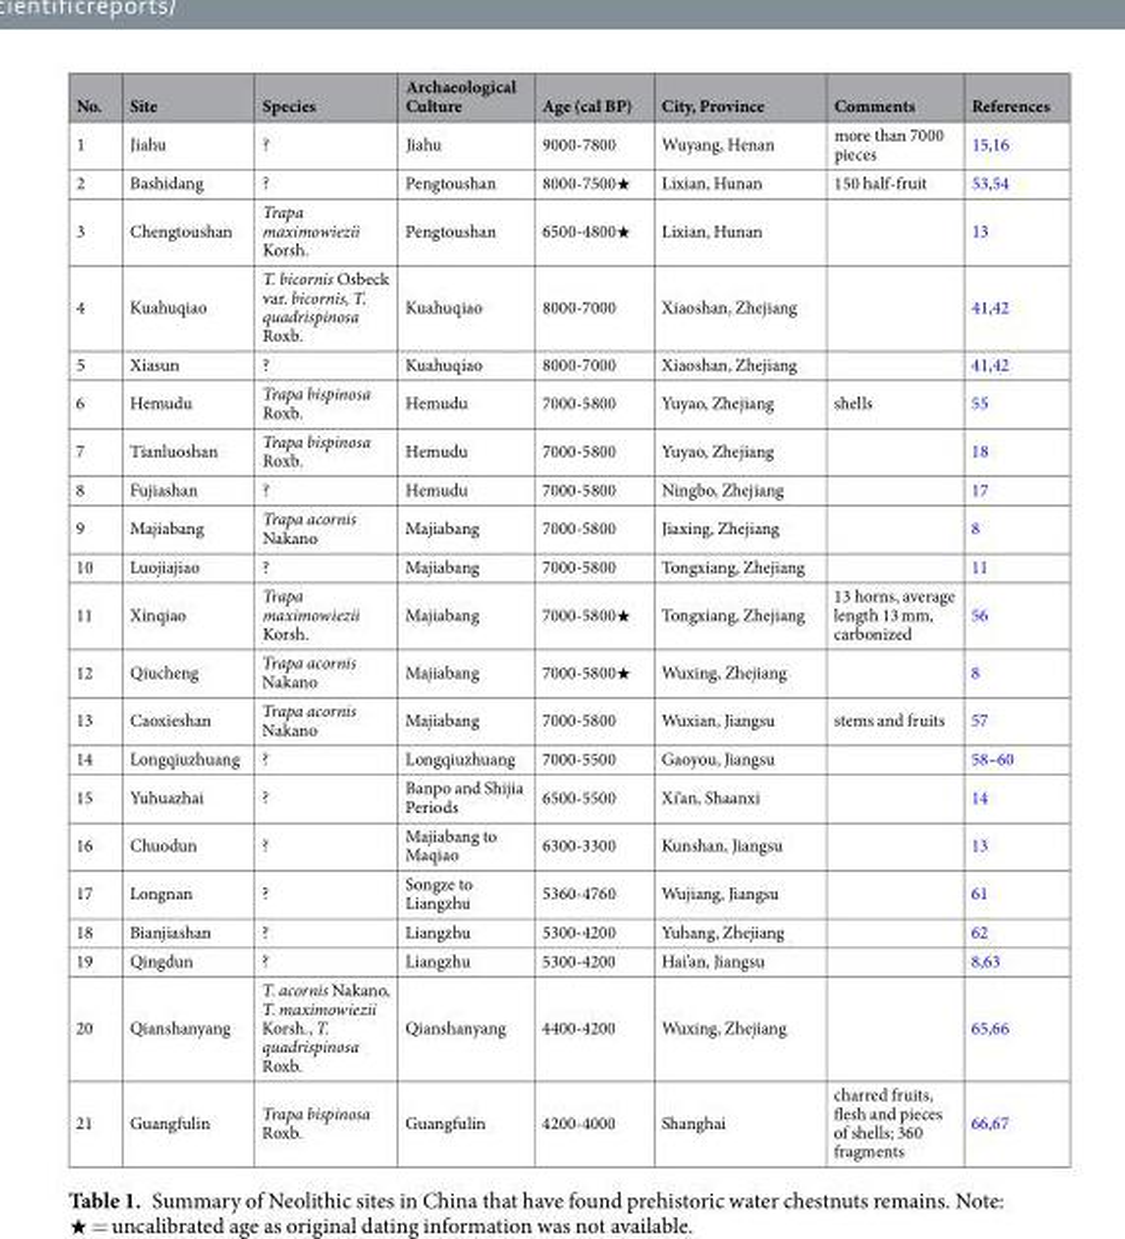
<table><thead><tr><td>No.</td><td>Site</td><td>Species</td><td>Archaeological Culture</td><td>Age (cal BP)</td><td>City, Province</td><td>Comments</td><td>References</td></tr></thead><tbody><tr><td>1</td><td>Jiahu</td><td>?</td><td>Jiahu</td><td>9000-7800</td><td>Wuyang, Henan</td><td>more than 7000 pieces</td><td>15,16</td></tr><tr><td>2</td><td>Bashidang</td><td>?</td><td>Pengtoushan</td><td>8000-7500★</td><td>Lixian, Hunan</td><td>150 half-fruit</td><td>53,54</td></tr><tr><td>3</td><td>Chengtoushan</td><td>Trapa maximowiezii Korsh.</td><td>Pengtoushan</td><td>6500-4800★</td><td>Lixian, Hunan</td><td></td><td>13</td></tr><tr><td>4</td><td>Kuahuqiao</td><td>T. bicornis Osbeck var. bicornis, T. quadrispinosa Roxb.</td><td>Kuahuqiao</td><td>8000-7000</td><td>Xiaoshan, Zhejiang</td><td></td><td>41,42</td></tr><tr><td>5</td><td>Xiasun</td><td>?</td><td>Kuahuqiao</td><td>8000-7000</td><td>Xiaoshan, Zhejiang</td><td></td><td>41,42</td></tr><tr><td>6</td><td>Hemudu</td><td>Trapa bispinosa Roxb.</td><td>Hemudu</td><td>7000-5800</td><td>Yuyao, Zhejiang</td><td>shells</td><td>55</td></tr><tr><td>7</td><td>Tianluoshan</td><td>Trapa bispinosa Roxb.</td><td>Hemudu</td><td>7000-5800</td><td>Yuyao, Zhejiang</td><td></td><td>18</td></tr><tr><td>8</td><td>Fujiashan</td><td>?</td><td>Hemudu</td><td>7000-5800</td><td>Ningbo, Zhejiang</td><td></td><td>17</td></tr><tr><td>9</td><td>Majiabang</td><td>Trapa acornis Nakano</td><td>Majiabang</td><td>7000-5800</td><td>Jiaxing, Zhejiang</td><td></td><td>8</td></tr><tr><td>10</td><td>Luojiajiao</td><td>?</td><td>Majiabang</td><td>7000-5800</td><td>Tongxiang, Zhejiang</td><td></td><td>11</td></tr><tr><td>11</td><td>Xinqiao</td><td>Trapa maximowiezii Korsh.</td><td>Majiabang</td><td>7000-5800★</td><td>Tongxiang, Zhejiang</td><td>13 horns, average length 13 mm, carbonized</td><td>56</td></tr><tr><td>12</td><td>Qiucheng</td><td>Trapa acornis Nakano</td><td>Majiabang</td><td>7000-5800★</td><td>Wuxing, Zhejiang</td><td></td><td>8</td></tr><tr><td>13</td><td>Caoxieshan</td><td>Trapa acornis Nakano</td><td>Majiabang</td><td>7000-5800</td><td>Wuxian, Jiangsu</td><td>stems and fruits</td><td>57</td></tr><tr><td>14</td><td>Longqiuzhuang</td><td>?</td><td>Longqiuzhuang</td><td>7000-5500</td><td>Gaoyou, Jiangsu</td><td></td><td>58–60</td></tr><tr><td>15</td><td>Yuhuazhai</td><td>?</td><td>Banpo and Shijia Periods</td><td>6500-5500</td><td>Xi’an, Shaanxi</td><td></td><td>14</td></tr><tr><td>16</td><td>Chuodun</td><td>?</td><td>Majiabang to Maqiao</td><td>6300-3300</td><td>Kunshan, Jiangsu</td><td></td><td>13</td></tr><tr><td>17</td><td>Longnan</td><td>?</td><td>Songze to Liangzhu</td><td>5360-4760</td><td>Wujiang, Jiangsu</td><td></td><td>61</td></tr><tr><td>18</td><td>Bianjiashan</td><td>?</td><td>Liangzhu</td><td>5300-4200</td><td>Yuhang, Zhejiang</td><td></td><td>62</td></tr><tr><td>19</td><td>Qingdun</td><td>?</td><td>Liangzhu</td><td>5300-4200</td><td>Hai’an, Jiangsu</td><td></td><td>8,63</td></tr><tr><td>20</td><td>Qianshanyang</td><td>T. acornis Nakano, T. maximowiezii Korsh., T. quadrispinosa Roxb.</td><td>Qianshanyang</td><td>4400-4200</td><td>Wuxing, Zhejiang</td><td></td><td>65,66</td></tr><tr><td>21</td><td>Guangfulin</td><td>Trapa bispinosa Roxb.</td><td>Guangfulin</td><td>4200-4000</td><td>Shanghai</td><td>charred fruits, flesh and pieces of shells; 360 fragments</td><td>66,67</td></tr></tbody></table>